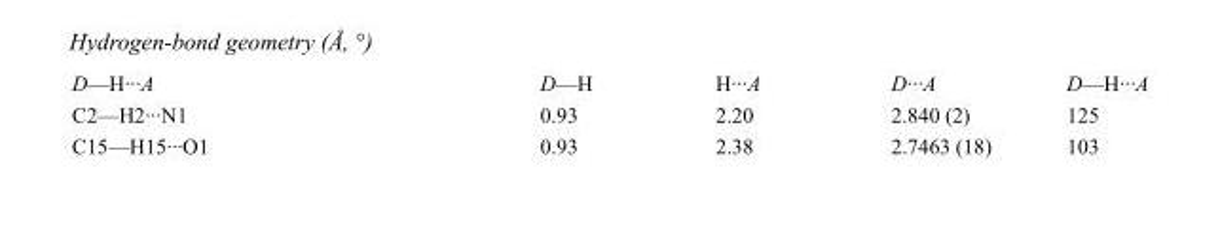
<table><tbody><tr><td>D—H···A</td><td>D—H</td><td>H···A</td><td>D···A</td><td>D—H···A</td></tr><tr><td>C2—H2···N1</td><td>0.93</td><td>2.20</td><td>2.840 (2)</td><td>125</td></tr><tr><td>C15—H15···O1</td><td>0.93</td><td>2.38</td><td>2.7463 (18)</td><td>103</td></tr></tbody></table>